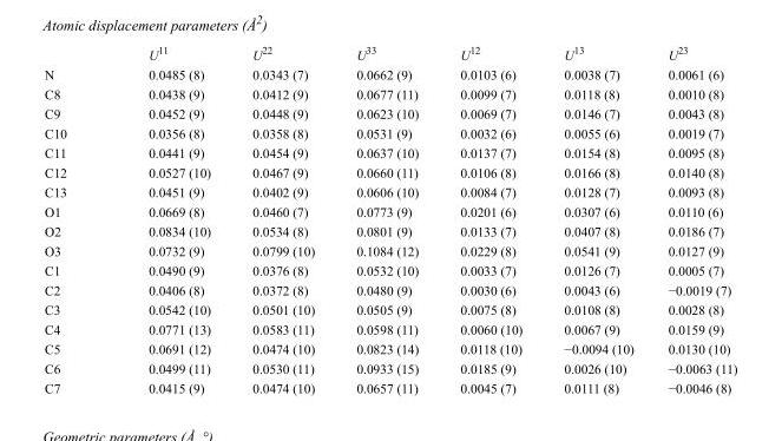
<table><thead><tr><td></td><td>U<sup>11</sup></td><td>U<sup>22</sup></td><td>U<sup>33</sup></td><td>U<sup>12</sup></td><td>U<sup>13</sup></td><td>U<sup>23</sup></td></tr></thead><tbody><tr><td>N</td><td>0.0485 (8)</td><td>0.0343 (7)</td><td>0.0662 (9)</td><td>0.0103 (6)</td><td>0.0038 (7)</td><td>0.0061 (6)</td></tr><tr><td>C8</td><td>0.0438 (9)</td><td>0.0412 (9)</td><td>0.0677 (11)</td><td>0.0099 (7)</td><td>0.0118 (8)</td><td>0.0010 (8)</td></tr><tr><td>C9</td><td>0.0452 (9)</td><td>0.0448 (9)</td><td>0.0623 (10)</td><td>0.0069 (7)</td><td>0.0146 (7)</td><td>0.0043 (8)</td></tr><tr><td>C10</td><td>0.0356 (8)</td><td>0.0358 (8)</td><td>0.0531 (9)</td><td>0.0032 (6)</td><td>0.0055 (6)</td><td>0.0019 (7)</td></tr><tr><td>C11</td><td>0.0441 (9)</td><td>0.0454 (9)</td><td>0.0637 (10)</td><td>0.0137 (7)</td><td>0.0154 (8)</td><td>0.0095 (8)</td></tr><tr><td>C12</td><td>0.0527 (10)</td><td>0.0467 (9)</td><td>0.0660 (11)</td><td>0.0106 (8)</td><td>0.0166 (8)</td><td>0.0140 (8)</td></tr><tr><td>C13</td><td>0.0451 (9)</td><td>0.0402 (9)</td><td>0.0606 (10)</td><td>0.0084 (7)</td><td>0.0128 (7)</td><td>0.0093 (8)</td></tr><tr><td>O1</td><td>0.0669 (8)</td><td>0.0460 (7)</td><td>0.0773 (9)</td><td>0.0201 (6)</td><td>0.0307 (6)</td><td>0.0110 (6)</td></tr><tr><td>O2</td><td>0.0834 (10)</td><td>0.0534 (8)</td><td>0.0801 (9)</td><td>0.0133 (7)</td><td>0.0407 (8)</td><td>0.0186 (7)</td></tr><tr><td>O3</td><td>0.0732 (9)</td><td>0.0799 (10)</td><td>0.1084 (12)</td><td>0.0229 (8)</td><td>0.0541 (9)</td><td>0.0127 (9)</td></tr><tr><td>C1</td><td>0.0490 (9)</td><td>0.0376 (8)</td><td>0.0532 (10)</td><td>0.0033 (7)</td><td>0.0126 (7)</td><td>0.0005 (7)</td></tr><tr><td>C2</td><td>0.0406 (8)</td><td>0.0372 (8)</td><td>0.0480 (9)</td><td>0.0030 (6)</td><td>0.0043 (6)</td><td>−0.0019 (7)</td></tr><tr><td>C3</td><td>0.0542 (10)</td><td>0.0501 (10)</td><td>0.0505 (9)</td><td>0.0075 (8)</td><td>0.0108 (8)</td><td>0.0028 (8)</td></tr><tr><td>C4</td><td>0.0771 (13)</td><td>0.0583 (11)</td><td>0.0598 (11)</td><td>0.0060 (10)</td><td>0.0067 (9)</td><td>0.0159 (9)</td></tr><tr><td>C5</td><td>0.0691 (12)</td><td>0.0474 (10)</td><td>0.0823 (14)</td><td>0.0118 (10)</td><td>−0.0094 (10)</td><td>0.0130 (10)</td></tr><tr><td>C6</td><td>0.0499 (11)</td><td>0.0530 (11)</td><td>0.0933 (15)</td><td>0.0185 (9)</td><td>0.0026 (10)</td><td>−0.0063 (11)</td></tr><tr><td>C7</td><td>0.0415 (9)</td><td>0.0474 (10)</td><td>0.0657 (11)</td><td>0.0045 (7)</td><td>0.0111 (8)</td><td>−0.0046 (8)</td></tr></tbody></table>